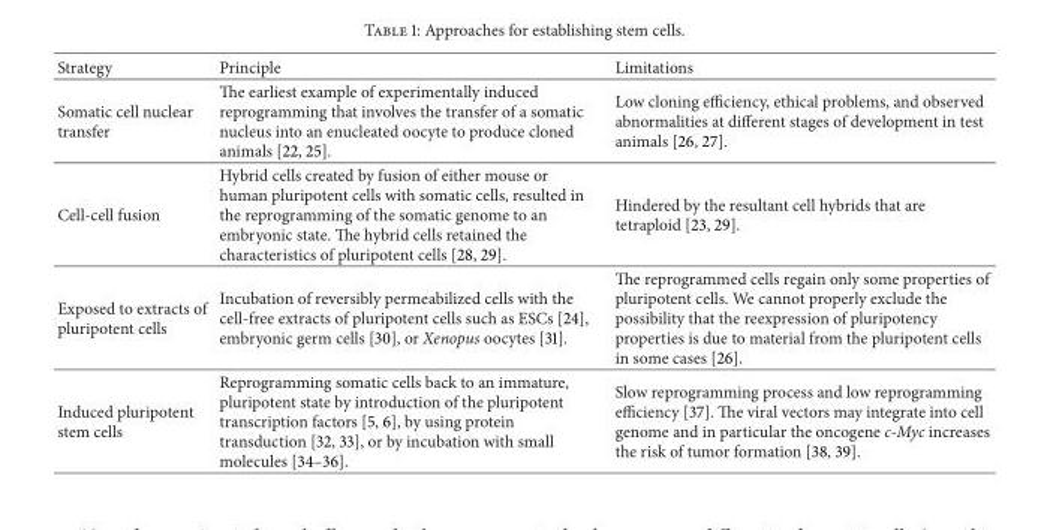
<table><thead><tr><td>Strategy</td><td>Principle</td><td>Limitations</td></tr></thead><tbody><tr><td>Somatic cell nuclear transfer</td><td>The earliest example of experimentally induced reprogramming that involves the transfer of a somatic nucleus into an enucleated oocyte to produce cloned animals [22, 25].</td><td>Low cloning efficiency, ethical problems, and observed abnormalities at different stages of development in test animals [26, 27].</td></tr><tr><td>Cell-cell fusion</td><td>Hybrid cells created by fusion of either mouse or human pluripotent cells with somatic cells, resulted in the reprogramming of the somatic genome to an embryonic state. The hybrid cells retained the characteristics of pluripotent cells [28, 29].</td><td>Hindered by the resultant cell hybrids that are tetraploid [23, 29].</td></tr><tr><td>Exposed to extracts of pluripotent cells</td><td>Incubation of reversibly permeabilized cells with the cell-free extracts of pluripotent cells such as ESCs [24], embryonic germ cells [30], or Xenopus oocytes [31].</td><td>The reprogrammed cells regain only some properties of pluripotent cells. We cannot properly exclude the possibility that the reexpression of pluripotency properties is due to material from the pluripotent cells in some cases [26].</td></tr><tr><td>Induced pluripotent stem cells</td><td>Reprogramming somatic cells back to an immature, pluripotent state by introduction of the pluripotent transcription factors [5, 6], by using protein transduction [32, 33], or by incubation with small molecules [34–36].</td><td>Slow reprogramming process and low reprogramming efficiency [37]. The viral vectors may integrate into cell genome and in particular the oncogene c-Myc increases the risk of tumor formation [38, 39].</td></tr></tbody></table>